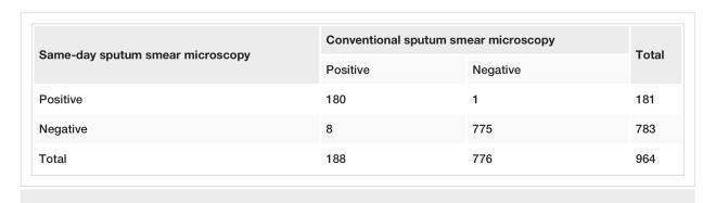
<table><tbody><tr><td rowspan="2">Same-day sputum smear microscopy</td><td colspan="2">Conventional sputum smear microscopy</td><td rowspan="2">Total</td></tr><tr><td>Positive</td><td>Negative</td></tr><tr><td>Positive</td><td>180</td><td>1</td><td>181</td></tr><tr><td>Negative</td><td>8</td><td>775</td><td>783</td></tr><tr><td>Total</td><td>188</td><td>776</td><td>964</td></tr></tbody></table>